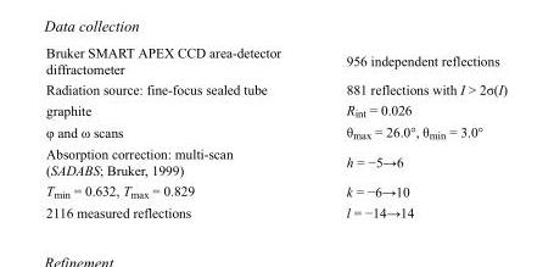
<table><tbody><tr><td>Bruker SMART APEX CCD area-detector diffractometer</td><td>956 independent reflections</td></tr><tr><td>Radiation source: fine-focus sealed tube</td><td>881 reflections with I &gt; 2σ(I)</td></tr><tr><td>graphite</td><td>R<sub>int</sub> = 0.026</td></tr><tr><td>φ and ω scans</td><td>θ<sub>max</sub> = 26.0°, θ<sub>min</sub> = 3.0°</td></tr><tr><td>Absorption correction: multi-scan (SADABS; Bruker, 1999)</td><td>h = −5→6</td></tr><tr><td>T<sub>min</sub> = 0.632, T<sub>max</sub> = 0.829</td><td>k = −6→10</td></tr><tr><td>2116 measured reflections</td><td>l = −14→14</td></tr></tbody></table>